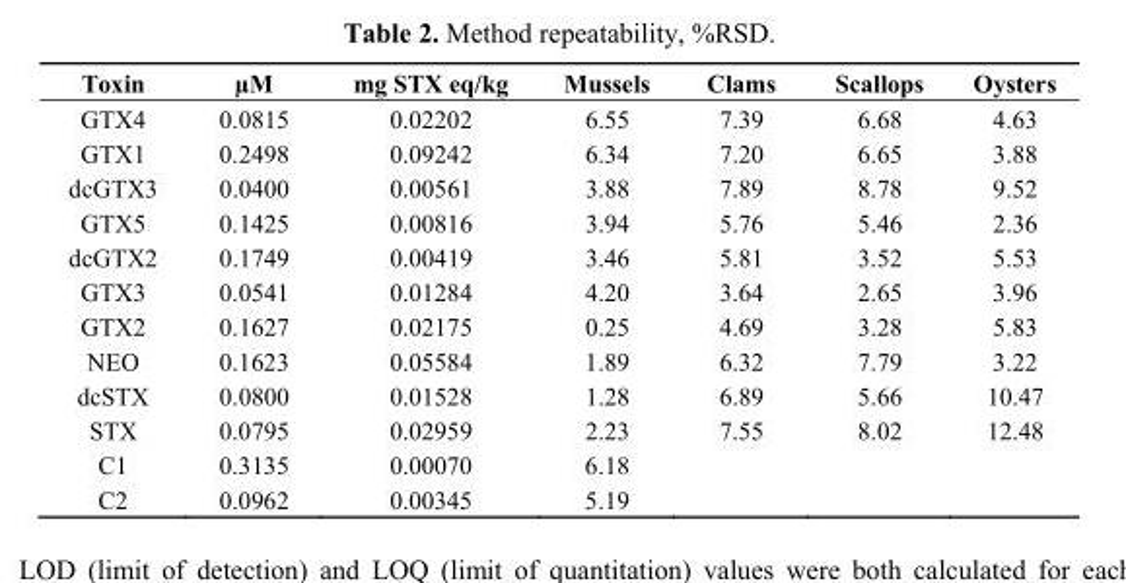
<table><thead><tr><td>Toxin</td><td>µM</td><td>mg STX eq/kg</td><td>Mussels</td><td>Clams</td><td>Scallops</td><td>Oysters</td></tr></thead><tbody><tr><td>GTX4</td><td>0.0815</td><td>0.02202</td><td>6.55</td><td>7.39</td><td>6.68</td><td>4.63</td></tr><tr><td>GTX1</td><td>0.2498</td><td>0.09242</td><td>6.34</td><td>7.20</td><td>6.65</td><td>3.88</td></tr><tr><td>dcGTX3</td><td>0.0400</td><td>0.00561</td><td>3.88</td><td>7.89</td><td>8.78</td><td>9.52</td></tr><tr><td>GTX5</td><td>0.1425</td><td>0.00816</td><td>3.94</td><td>5.76</td><td>5.46</td><td>2.36</td></tr><tr><td>dcGTX2</td><td>0.1749</td><td>0.00419</td><td>3.46</td><td>5.81</td><td>3.52</td><td>5.53</td></tr><tr><td>GTX3</td><td>0.0541</td><td>0.01284</td><td>4.20</td><td>3.64</td><td>2.65</td><td>3.96</td></tr><tr><td>GTX2</td><td>0.1627</td><td>0.02175</td><td>0.25</td><td>4.69</td><td>3.28</td><td>5.83</td></tr><tr><td>NEO</td><td>0.1623</td><td>0.05584</td><td>1.89</td><td>6.32</td><td>7.79</td><td>3.22</td></tr><tr><td>dcSTX</td><td>0.0800</td><td>0.01528</td><td>1.28</td><td>6.89</td><td>5.66</td><td>10.47</td></tr><tr><td>STX</td><td>0.0795</td><td>0.02959</td><td>2.23</td><td>7.55</td><td>8.02</td><td>12.48</td></tr><tr><td>C1</td><td>0.3135</td><td>0.00070</td><td>6.18</td><td></td><td></td><td></td></tr><tr><td>C2</td><td>0.0962</td><td>0.00345</td><td>5.19</td><td></td><td></td><td></td></tr></tbody></table>